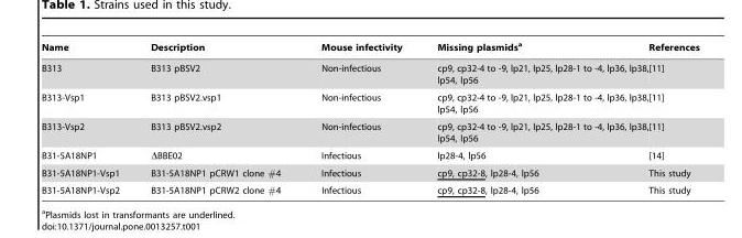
<table><thead><tr><td>Name</td><td>Description</td><td>Mouse infectivity</td><td>Missing plasmids<sup>a</sup></td><td>References</td></tr></thead><tbody><tr><td>B313</td><td>B313 pBSV2</td><td>Non-infectious</td><td>cp9, cp32-4 to -9, lp21, lp25, lp28-1 to -4, lp36, lp38, lp54, lp56</td><td>[11]</td></tr><tr><td>B313-Vsp1</td><td>B313 pBSV2.vsp1</td><td>Non-infectious</td><td>cp9, cp32-4 to -9, lp21, lp25, lp28-1 to -4, lp36, lp38, lp54, lp56</td><td>[11]</td></tr><tr><td>B313-Vsp2</td><td>B313 pBSV2.vsp2</td><td>Non-infectious</td><td>cp9, cp32-4 to -9, lp21, lp25, lp28-1 to -4, lp36, lp38, lp54, lp56</td><td>[11]</td></tr><tr><td>B31-5A18NP1</td><td>ΔBBE02</td><td>Infectious</td><td>lp28-4, lp56</td><td>[14]</td></tr><tr><td>B31-5A18NP1-Vsp1</td><td>B31-5A18NP1 pCRW1 clone #4</td><td>Infectious</td><td>cp9, cp32-8, lp28-4, lp56</td><td>This study</td></tr><tr><td>B31-5A18NP1-Vsp2</td><td>B31-5A18NP1 pCRW2 clone #4</td><td>Infectious</td><td>cp9, cp32-8, lp28-4, lp56</td><td>This study</td></tr></tbody></table>